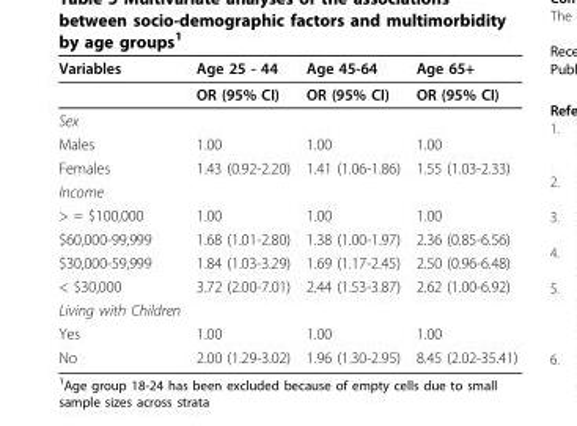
<table><thead><tr><td>Variables</td><td>Age 25 - 44</td><td>Age 45-64</td><td>Age 65+</td></tr></thead><tbody><tr><td></td><td>OR (95% CI)</td><td>OR (95% CI)</td><td>OR (95% CI)</td></tr><tr><td colspan="4">Sex</td></tr><tr><td>Males</td><td>1.00</td><td>1.00</td><td>1.00</td></tr><tr><td>Females</td><td>1.43 (0.92-2.20)</td><td>1.41 (1.06-1.86)</td><td>1.55 (1.03-2.33)</td></tr><tr><td colspan="4">Income</td></tr><tr><td>&gt; = $100,000</td><td>1.00</td><td>1.00</td><td>1.00</td></tr><tr><td>$60,000-99,999</td><td>1.68 (1.01-2.80)</td><td>1.38 (1.00-1.97)</td><td>2.36 (0.85-6.56)</td></tr><tr><td>$30,000-59,999</td><td>1.84 (1.03-3.29)</td><td>1.69 (1.17-2.45)</td><td>2.50 (0.96-6.48)</td></tr><tr><td>&lt; $30,000</td><td>3.72 (2.00-7.01)</td><td>2.44 (1.53-3.87)</td><td>2.62 (1.00-6.92)</td></tr><tr><td colspan="4">Living with Children</td></tr><tr><td>Yes</td><td>1.00</td><td>1.00</td><td>1.00</td></tr><tr><td>No</td><td>2.00 (1.29-3.02)</td><td>1.96 (1.30-2.95)</td><td>8.45 (2.02-35.41)</td></tr></tbody></table>